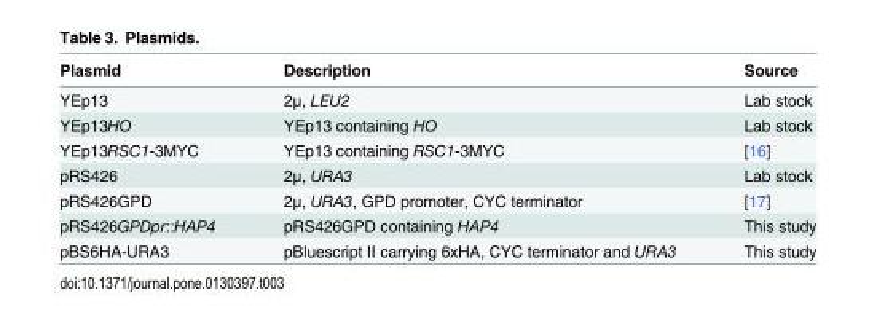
<table><thead><tr><td>Plasmid</td><td>Description</td><td>Source</td></tr></thead><tbody><tr><td>YEp13</td><td>2μ, LEU2</td><td>Lab stock</td></tr><tr><td>YEp13HO</td><td>YEp13 containing HO</td><td>Lab stock</td></tr><tr><td>YEp13RSC1-3MYC</td><td>YEp13 containing RSC1-3MYC</td><td>[16]</td></tr><tr><td>pRS426</td><td>2μ, URA3</td><td>Lab stock</td></tr><tr><td>pRS426GPD</td><td>2μ, URA3, GPD promoter, CYC terminator</td><td>[17]</td></tr><tr><td>pRS426GPDpr::HAP4</td><td>pRS426GPD containing HAP4</td><td>This study</td></tr><tr><td>pBS6HA-URA3</td><td>pBluescript II carrying 6xHA, CYC terminator and URA3</td><td>This study</td></tr></tbody></table>